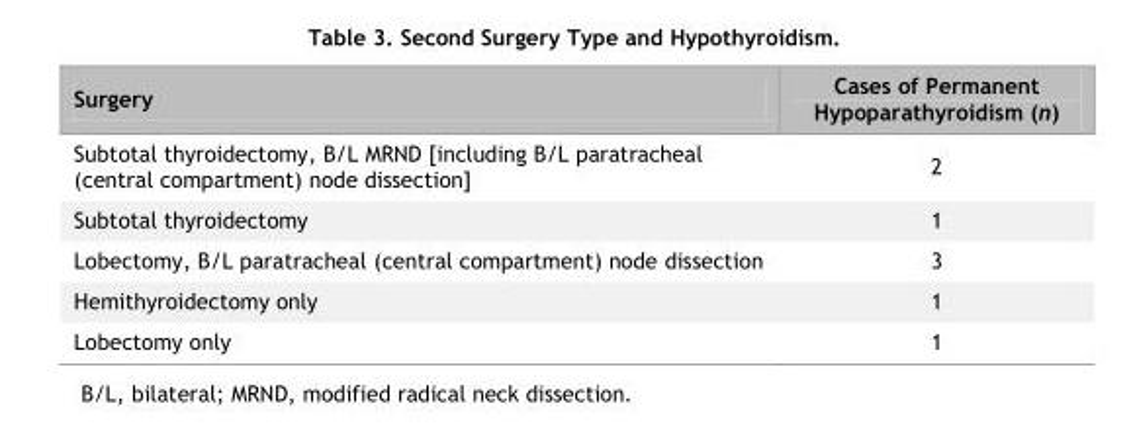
<table><thead><tr><td>Surgery</td><td>Cases of Permanent Hypoparathyroidism (n)</td></tr></thead><tbody><tr><td>Subtotal thyroidectomy, B/L MRND [including B/L paratracheal (central compartment) node dissection]</td><td>2</td></tr><tr><td>Subtotal thyroidectomy</td><td>1</td></tr><tr><td>Lobectomy, B/L paratracheal (central compartment) node dissection</td><td>3</td></tr><tr><td>Hemithyroidectomy only</td><td>1</td></tr><tr><td>Lobectomy only</td><td>1</td></tr></tbody></table>